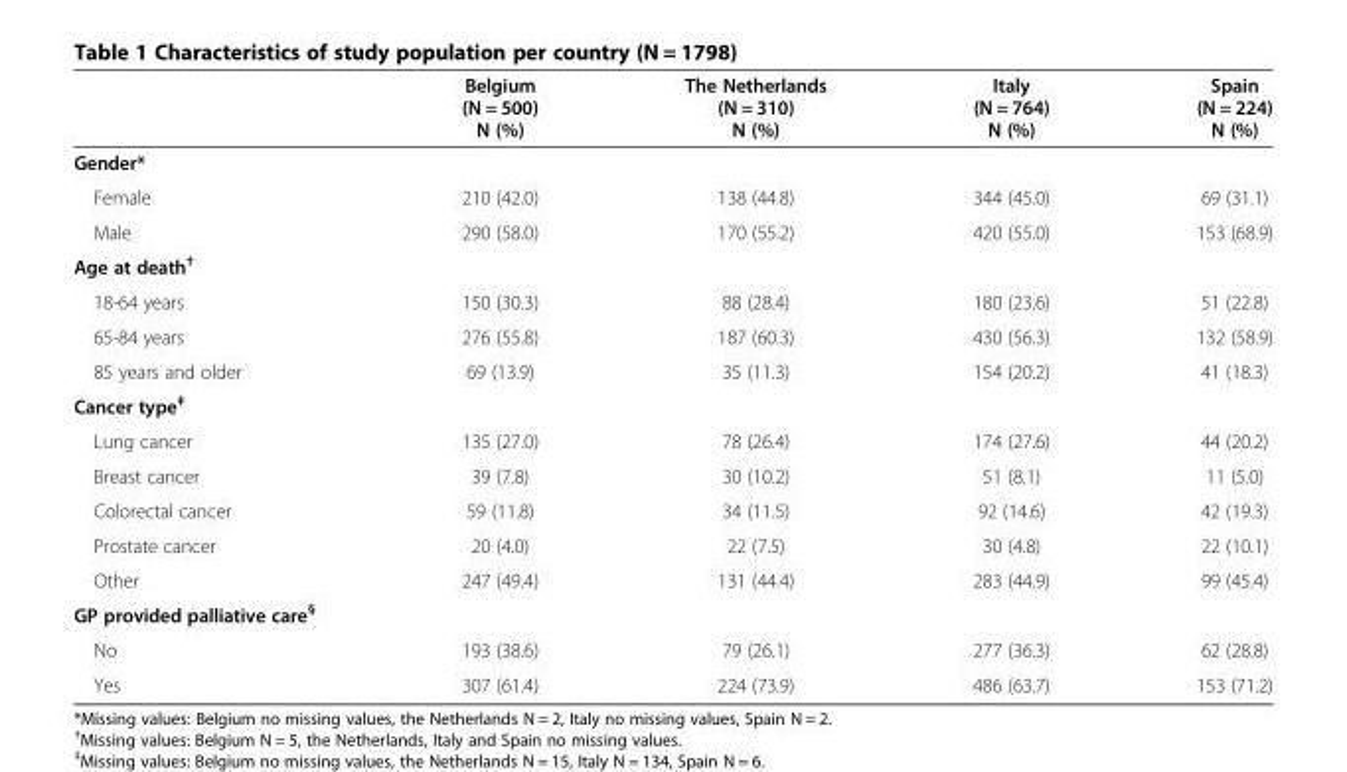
<table><thead><tr><td></td><td>Belgium (N = 500) N (%)</td><td>The Netherlands (N = 310) N (%)</td><td>Italy (N = 764) N (%)</td><td>Spain (N = 224) N (%)</td></tr></thead><tbody><tr><td colspan="5">Gender*</td></tr><tr><td>Female</td><td>210 (42.0)</td><td>138 (44.8)</td><td>344 (45.0)</td><td>69 (31.1)</td></tr><tr><td>Male</td><td>290 (58.0)</td><td>170 (55.2)</td><td>420 (55.0)</td><td>153 (68.9)</td></tr><tr><td colspan="5">Age at death<sup>†</sup></td></tr><tr><td>18-64 years</td><td>150 (30.3)</td><td>88 (28.4)</td><td>180 (23.6)</td><td>51 (22.8)</td></tr><tr><td>65-84 years</td><td>276 (55.8)</td><td>187 (60.3)</td><td>430 (56.3)</td><td>132 (58.9)</td></tr><tr><td>85 years and older</td><td>69 (13.9)</td><td>35 (11.3)</td><td>154 (20.2)</td><td>41 (18.3)</td></tr><tr><td colspan="5">Cancer type<sup>‡</sup></td></tr><tr><td>Lung cancer</td><td>135 (27.0)</td><td>78 (26.4)</td><td>174 (27.6)</td><td>44 (20.2)</td></tr><tr><td>Breast cancer</td><td>39 (7.8)</td><td>30 (10.2)</td><td>51 (8.1)</td><td>11 (5.0)</td></tr><tr><td>Colorectal cancer</td><td>59 (11.8)</td><td>34 (11.5)</td><td>92 (14.6)</td><td>42 (19.3)</td></tr><tr><td>Prostate cancer</td><td>20 (4.0)</td><td>22 (7.5)</td><td>30 (4.8)</td><td>22 (10.1)</td></tr><tr><td>Other</td><td>247 (49.4)</td><td>131 (44.4)</td><td>283 (44.9)</td><td>99 (45.4)</td></tr><tr><td colspan="5">GP provided palliative care<sup>§</sup></td></tr><tr><td>No</td><td>193 (38.6)</td><td>79 (26.1)</td><td>277 (36.3)</td><td>62 (28.8)</td></tr><tr><td>Yes</td><td>307 (61.4)</td><td>224 (73.9)</td><td>486 (63.7)</td><td>153 (71.2)</td></tr></tbody></table>